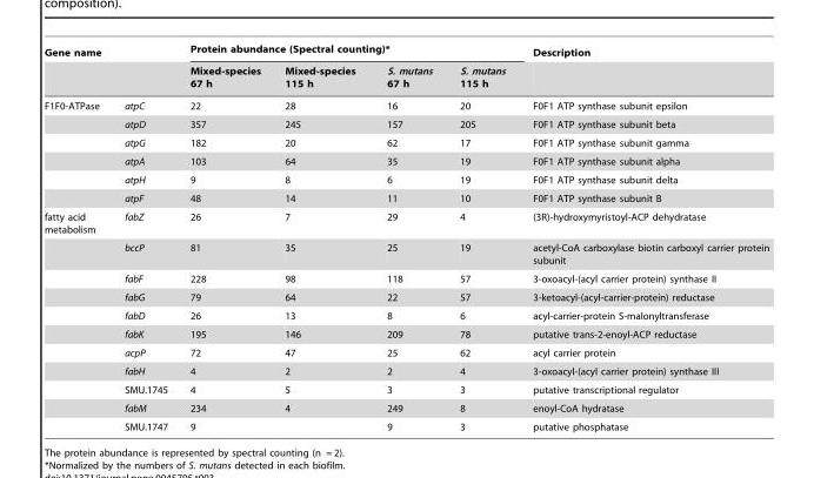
<table><thead><tr><td colspan="2">Gene name</td><td colspan="4">Protein abundance (Spectral counting)*</td><td rowspan="2">Description</td></tr><tr><td></td><td></td><td>Mixed-species 67 h</td><td>Mixed-species 115 h</td><td>S. mutans 67 h</td><td>S. mutans 115 h</td></tr></thead><tbody><tr><td rowspan="6">F1F0-ATPase</td><td>atpC</td><td>22</td><td>28</td><td>16</td><td>20</td><td>F0F1 ATP synthase subunit epsilon</td></tr><tr><td>atpD</td><td>357</td><td>245</td><td>157</td><td>205</td><td>F0F1 ATP synthase subunit beta</td></tr><tr><td>atpG</td><td>182</td><td>20</td><td>62</td><td>17</td><td>F0F1 ATP synthase subunit gamma</td></tr><tr><td>atpA</td><td>103</td><td>64</td><td>35</td><td>19</td><td>F0F1 ATP synthase subunit alpha</td></tr><tr><td>atpH</td><td>9</td><td>8</td><td>6</td><td>19</td><td>F0F1 ATP synthase subunit delta</td></tr><tr><td>atpF</td><td>48</td><td>14</td><td>11</td><td>10</td><td>F0F1 ATP synthase subunit B</td></tr><tr><td rowspan="11">fatty acid metabolism</td><td>fabZ</td><td>26</td><td>7</td><td>29</td><td>4</td><td>(3R)-hydroxymyristoyl-ACP dehydratase</td></tr><tr><td>bccP</td><td>81</td><td>35</td><td>25</td><td>19</td><td>acetyl-CoA carboxylase biotin carboxyl carrier protein subunit</td></tr><tr><td>fabF</td><td>228</td><td>98</td><td>118</td><td>57</td><td>3-oxoacyl-(acyl carrier protein) synthase II</td></tr><tr><td>fabG</td><td>79</td><td>64</td><td>22</td><td>57</td><td>3-ketoacyl-(acyl-carrier-protein) reductase</td></tr><tr><td>fabD</td><td>26</td><td>13</td><td>8</td><td>6</td><td>acyl-carrier-protein S-malonyltransferase</td></tr><tr><td>fabK</td><td>195</td><td>146</td><td>209</td><td>78</td><td>putative trans-2-enoyl-ACP reductase</td></tr><tr><td>acpP</td><td>72</td><td>47</td><td>25</td><td>62</td><td>acyl carrier protein</td></tr><tr><td>fabH</td><td>4</td><td>2</td><td>2</td><td>4</td><td>3-oxoacyl-(acyl carrier protein) synthase III</td></tr><tr><td>SMU.1745</td><td>4</td><td>5</td><td>3</td><td>3</td><td>putative transcriptional regulator</td></tr><tr><td>fabM</td><td>234</td><td>4</td><td>249</td><td>8</td><td>enoyl-CoA hydratase</td></tr><tr><td>SMU.1747</td><td>9</td><td></td><td>9</td><td>3</td><td>putative phosphatase</td></tr></tbody></table>